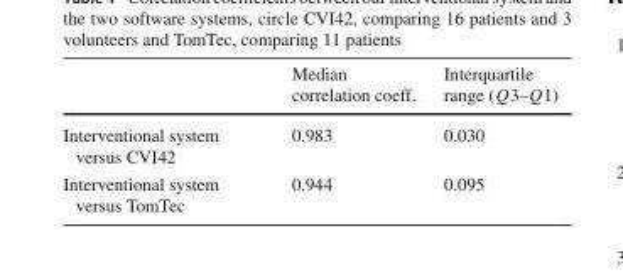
<table><thead><tr><td></td><td>Median correlation coeff.</td><td>Interquartile range (Q3–Q1)</td></tr></thead><tbody><tr><td>Interventional system versus CVI42</td><td>0.983</td><td>0.030</td></tr><tr><td>Interventional system versus TomTec</td><td>0.944</td><td>0.095</td></tr></tbody></table>